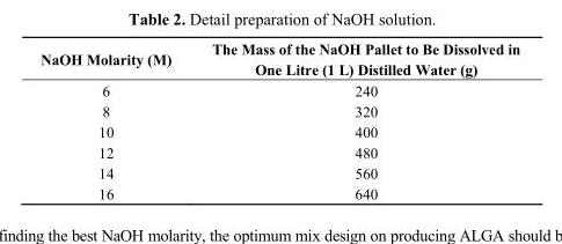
<table><thead><tr><td>NaOH Molarity (M)</td><td>The Mass of the NaOH Pallet to Be Dissolved in One Litre (1 L) Distilled Water (g)</td></tr></thead><tbody><tr><td>6</td><td>240</td></tr><tr><td>8</td><td>320</td></tr><tr><td>10</td><td>400</td></tr><tr><td>12</td><td>480</td></tr><tr><td>14</td><td>560</td></tr><tr><td>16</td><td>640</td></tr></tbody></table>